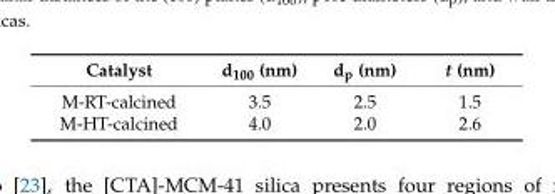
<table><thead><tr><td>Catalyst</td><td>d<sub>100</sub> (nm)</td><td>d<sub>p</sub> (nm)</td><td>t (nm)</td></tr></thead><tbody><tr><td>M-RT-calcined</td><td>3.5</td><td>2.5</td><td>1.5</td></tr><tr><td>M-HT-calcined</td><td>4.0</td><td>2.0</td><td>2.6</td></tr></tbody></table>